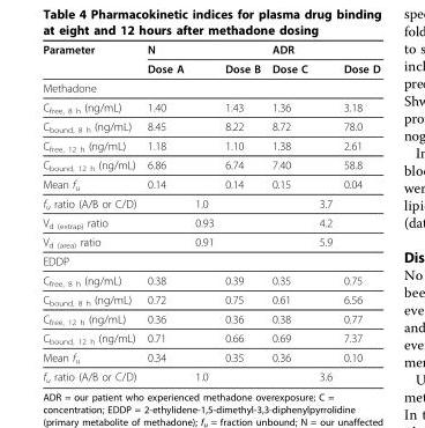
<table><thead><tr><td rowspan="2">Parameter</td><td colspan="3">N</td><td colspan="3">ADR</td></tr><tr><td>Dose A</td><td></td><td>Dose B</td><td>Dose C</td><td></td><td>Dose D</td></tr></thead><tbody><tr><td colspan="7">Methadone</td></tr><tr><td>C<sub>free, 8 h</sub> (ng/mL)</td><td>1.40</td><td></td><td>1.43</td><td>1.36</td><td></td><td>3.18</td></tr><tr><td>C<sub>bound, 8 h</sub> (ng/mL)</td><td>8.45</td><td></td><td>8.22</td><td>8.72</td><td></td><td>78.0</td></tr><tr><td>C<sub>free, 12 h</sub> (ng/mL)</td><td>1.18</td><td></td><td>1.10</td><td>1.38</td><td></td><td>2.61</td></tr><tr><td>C<sub>bound, 12 h</sub> (ng/mL)</td><td>6.86</td><td></td><td>6.74</td><td>7.40</td><td></td><td>58.8</td></tr><tr><td>Mean f<sub>u</sub></td><td>0.14</td><td></td><td>0.14</td><td>0.15</td><td></td><td>0.04</td></tr><tr><td>f<sub>u</sub> ratio (A/B or C/D)</td><td></td><td>1.0</td><td></td><td></td><td>3.7</td><td></td></tr><tr><td>V<sub>d (extrap)</sub> ratio</td><td></td><td>0.93</td><td></td><td></td><td>4.2</td><td></td></tr><tr><td>V<sub>d (area)</sub> ratio</td><td></td><td>0.91</td><td></td><td></td><td>5.9</td><td></td></tr><tr><td colspan="7">EDDP</td></tr><tr><td>C<sub>free, 8 h</sub> (ng/mL)</td><td>0.38</td><td></td><td>0.39</td><td>0.35</td><td></td><td>0.75</td></tr><tr><td>C<sub>bound, 8 h</sub> (ng/mL)</td><td>0.72</td><td></td><td>0.75</td><td>0.61</td><td></td><td>6.56</td></tr><tr><td>C<sub>free, 12 h</sub> (ng/mL)</td><td>0.36</td><td></td><td>0.36</td><td>0.38</td><td></td><td>0.77</td></tr><tr><td>C<sub>bound, 12 h</sub> (ng/mL)</td><td>0.71</td><td></td><td>0.66</td><td>0.69</td><td></td><td>7.37</td></tr><tr><td>Mean f<sub>u</sub></td><td>0.34</td><td></td><td>0.35</td><td>0.36</td><td></td><td>0.10</td></tr><tr><td>f<sub>u</sub> ratio (A/B or C/D)</td><td></td><td>1.0</td><td></td><td></td><td>3.6</td><td></td></tr></tbody></table>